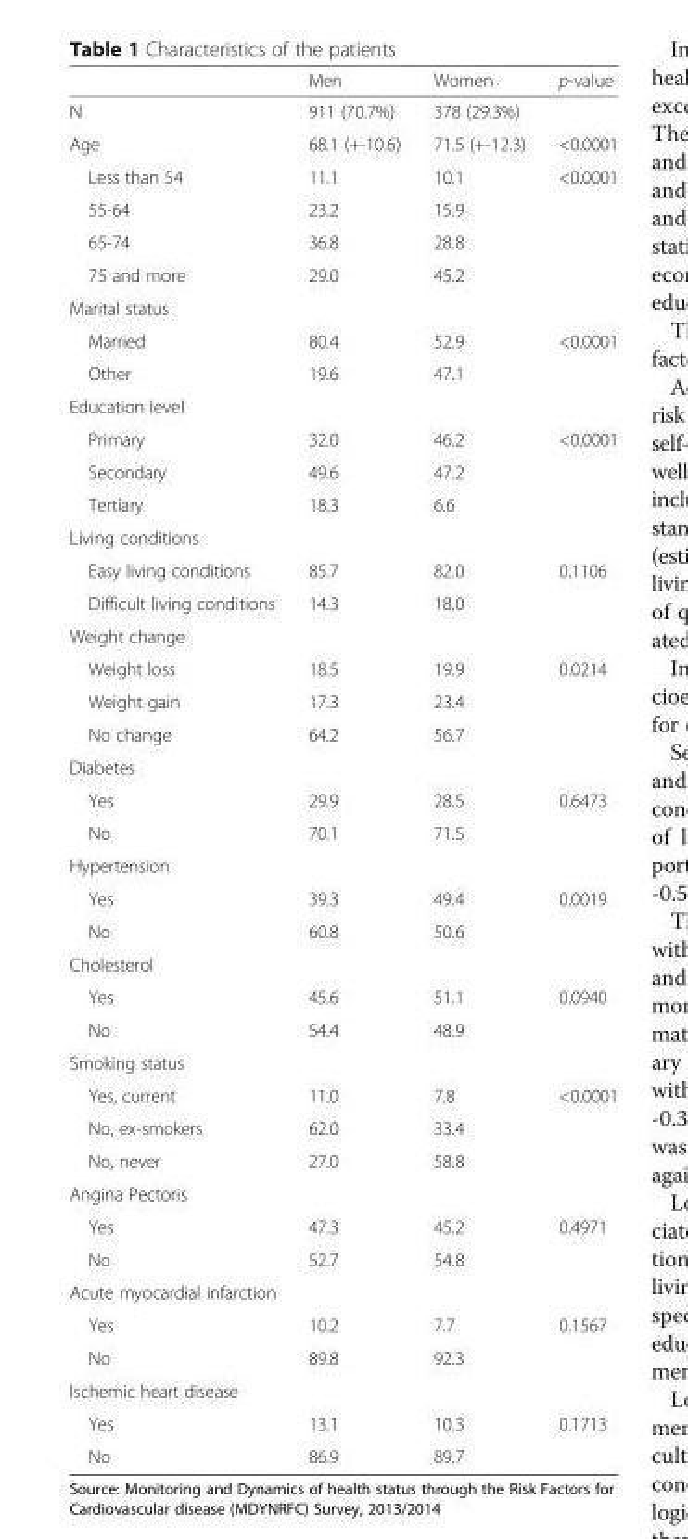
<table><thead><tr><td></td><td>Men</td><td>Women</td><td>p-value</td></tr></thead><tbody><tr><td>N</td><td>911 (70.7%)</td><td>378 (29.3%)</td><td></td></tr><tr><td>Age</td><td>68.1 (+-10.6)</td><td>71.5 (+-12.3)</td><td>&lt;0.0001</td></tr><tr><td>Less than 54</td><td>11.1</td><td>10.1</td><td>&lt;0.0001</td></tr><tr><td>55-64</td><td>23.2</td><td>15.9</td><td></td></tr><tr><td>65-74</td><td>36.8</td><td>28.8</td><td></td></tr><tr><td>75 and more</td><td>29.0</td><td>45.2</td><td></td></tr><tr><td colspan="4">Marital status</td></tr><tr><td>Married</td><td>80.4</td><td>52.9</td><td>&lt;0.0001</td></tr><tr><td>Other</td><td>19.6</td><td>47.1</td><td></td></tr><tr><td colspan="4">Education level</td></tr><tr><td>Primary</td><td>32.0</td><td>46.2</td><td>&lt;0.0001</td></tr><tr><td>Secondary</td><td>49.6</td><td>47.2</td><td></td></tr><tr><td>Tertiary</td><td>18.3</td><td>6.6</td><td></td></tr><tr><td colspan="4">Living conditions</td></tr><tr><td>Easy living conditions</td><td>85.7</td><td>82.0</td><td>0.1106</td></tr><tr><td>Difficult living conditions</td><td>14.3</td><td>18.0</td><td></td></tr><tr><td colspan="4">Weight change</td></tr><tr><td>Weight loss</td><td>18.5</td><td>19.9</td><td>0.0214</td></tr><tr><td>Weight gain</td><td>17.3</td><td>23.4</td><td></td></tr><tr><td>No change</td><td>64.2</td><td>56.7</td><td></td></tr><tr><td colspan="4">Diabetes</td></tr><tr><td>Yes</td><td>29.9</td><td>28.5</td><td>0.6473</td></tr><tr><td>No</td><td>70.1</td><td>71.5</td><td></td></tr><tr><td colspan="4">Hypertension</td></tr><tr><td>Yes</td><td>39.3</td><td>49.4</td><td>0.0019</td></tr><tr><td>No</td><td>60.8</td><td>50.6</td><td></td></tr><tr><td colspan="4">Cholesterol</td></tr><tr><td>Yes</td><td>45.6</td><td>51.1</td><td>0.0940</td></tr><tr><td>No</td><td>54.4</td><td>48.9</td><td></td></tr><tr><td colspan="4">Smoking status</td></tr><tr><td>Yes, current</td><td>11.0</td><td>7.8</td><td>&lt;0.0001</td></tr><tr><td>No, ex-smokers</td><td>62.0</td><td>33.4</td><td></td></tr><tr><td>No, never</td><td>27.0</td><td>58.8</td><td></td></tr><tr><td colspan="4">Angina Pectoris</td></tr><tr><td>Yes</td><td>47.3</td><td>45.2</td><td>0.4971</td></tr><tr><td>No</td><td>52.7</td><td>54.8</td><td></td></tr><tr><td colspan="4">Acute myocardial infarction</td></tr><tr><td>Yes</td><td>10.2</td><td>7.7</td><td>0.1567</td></tr><tr><td>No</td><td>89.8</td><td>92.3</td><td></td></tr><tr><td colspan="4">Ischemic heart disease</td></tr><tr><td>Yes</td><td>13.1</td><td>10.3</td><td>0.1713</td></tr><tr><td>No</td><td>86.9</td><td>89.7</td><td></td></tr></tbody></table>